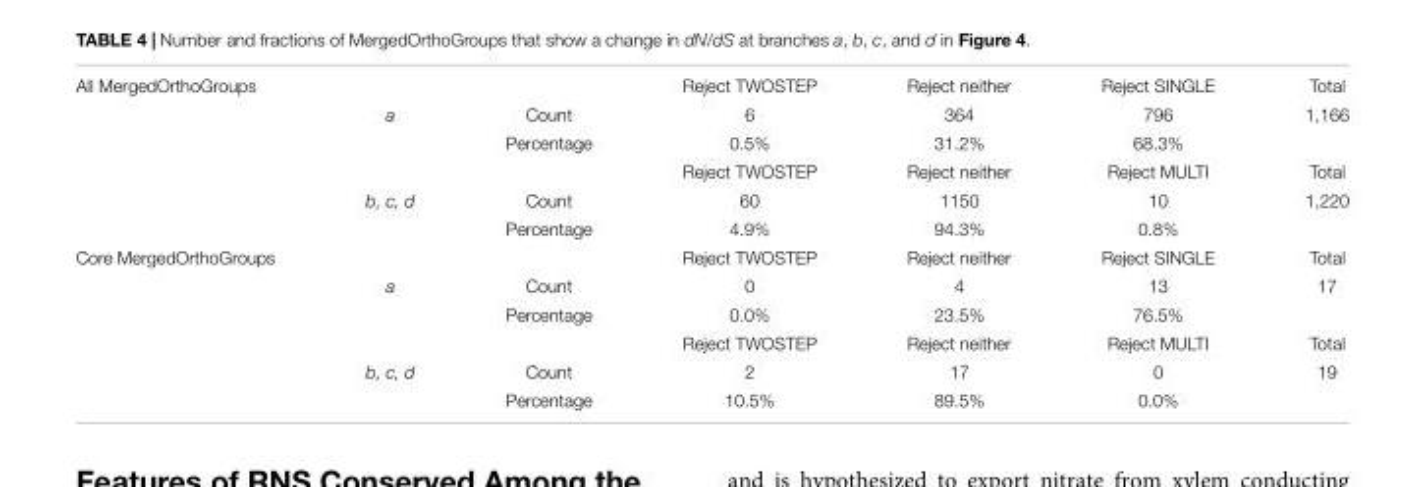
<table><tbody><tr><td rowspan="6">All MergedOrthoGroups</td><td colspan="2"></td><td>Reject TWOSTEP</td><td>Reject neither</td><td>Reject SINGLE</td><td>Total</td></tr><tr><td>a</td><td>Count</td><td>6</td><td>364</td><td>796</td><td>1,166</td></tr><tr><td></td><td>Percentage</td><td>0.5%</td><td>31.2%</td><td>68.3%</td><td></td></tr><tr><td colspan="2"></td><td>Reject TWOSTEP</td><td>Reject neither</td><td>Reject MULTI</td><td>Total</td></tr><tr><td>b, c, d</td><td>Count</td><td>60</td><td>1150</td><td>10</td><td>1,220</td></tr><tr><td></td><td>Percentage</td><td>4.9%</td><td>94.3%</td><td>0.8%</td><td></td></tr><tr><td rowspan="6">Core MergedOrthoGroups</td><td colspan="2"></td><td>Reject TWOSTEP</td><td>Reject neither</td><td>Reject SINGLE</td><td>Total</td></tr><tr><td>a</td><td>Count</td><td>0</td><td>4</td><td>13</td><td>17</td></tr><tr><td></td><td>Percentage</td><td>0.0%</td><td>23.5%</td><td>76.5%</td><td></td></tr><tr><td colspan="2"></td><td>Reject TWOSTEP</td><td>Reject neither</td><td>Reject MULTI</td><td>Total</td></tr><tr><td>b, c, d</td><td>Count</td><td>2</td><td>17</td><td>0</td><td>19</td></tr><tr><td></td><td>Percentage</td><td>10.5%</td><td>89.5%</td><td>0.0%</td><td></td></tr></tbody></table>